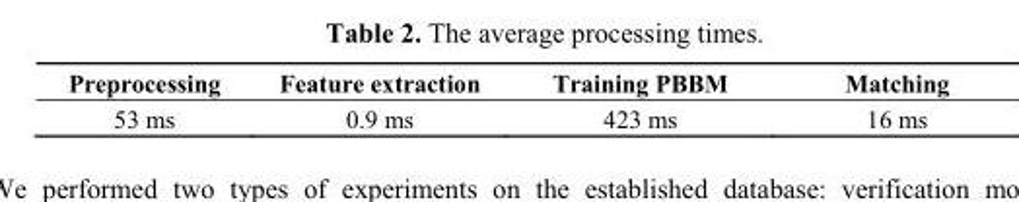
<table><thead><tr><td>Preprocessing</td><td>Feature extraction</td><td>Training PBBM</td><td>Matching</td></tr></thead><tbody><tr><td>53 ms</td><td>0.9 ms</td><td>423 ms</td><td>16 ms</td></tr></tbody></table>